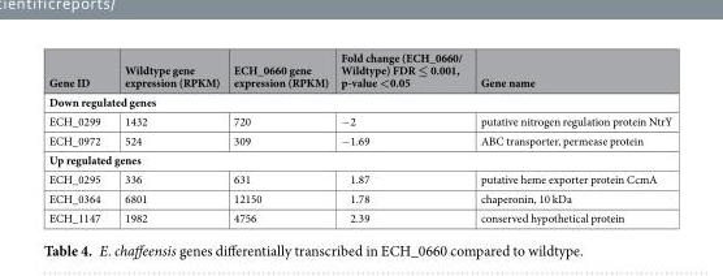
<table><thead><tr><td>Gene ID</td><td>Wildtype gene expression (RPKM)</td><td>ECH_0660 gene expression (RPKM)</td><td>Fold change (ECH_0660/ Wildtype) FDR ≤ 0.001, p-value &lt;0.05</td><td>Gene name</td></tr></thead><tbody><tr><td colspan="5">Down regulated genes</td></tr><tr><td>ECH_0299</td><td>1432</td><td>720</td><td>−2</td><td>putative nitrogen regulation protein NtrY</td></tr><tr><td>ECH_0972</td><td>524</td><td>309</td><td>−1.69</td><td>ABC transporter, permease protein</td></tr><tr><td colspan="5">Up regulated genes</td></tr><tr><td>ECH_0295</td><td>336</td><td>631</td><td>1.87</td><td>putative heme exporter protein CcmA</td></tr><tr><td>ECH_0364</td><td>6801</td><td>12150</td><td>1.78</td><td>chaperonin, 10 kDa</td></tr><tr><td>ECH_1147</td><td>1982</td><td>4756</td><td>2.39</td><td>conserved hypothetical protein</td></tr></tbody></table>